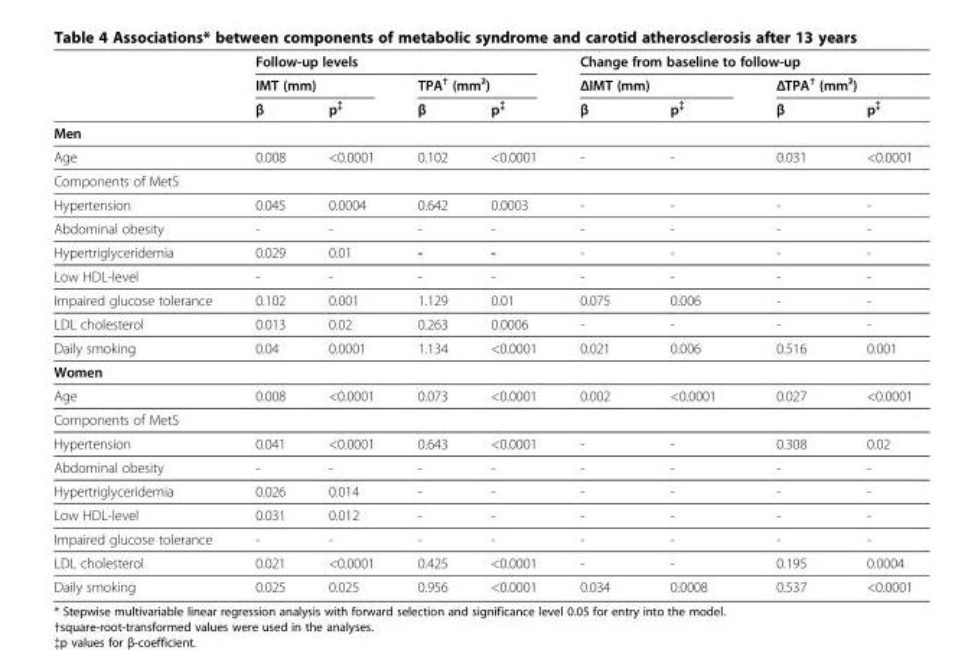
<table><thead><tr><td rowspan="3"></td><td colspan="4">Follow-up levels</td><td colspan="4">Change from baseline to follow-up</td></tr><tr><td colspan="2">IMT (mm)</td><td colspan="2">TPA<sup>†</sup> (mm²)</td><td colspan="2">ΔIMT (mm)</td><td colspan="2">ΔTPA<sup>†</sup> (mm²)</td></tr><tr><td>β</td><td>p{{</td><td>β</td><td>p{{</td><td>β</td><td>p{{</td><td>β</td><td>p{{</td></tr></thead><tbody><tr><td colspan="9">Men</td></tr><tr><td>Age</td><td>0.008</td><td>&lt;0.0001</td><td>0.102</td><td>&lt;0.0001</td><td>-</td><td>-</td><td>0.031</td><td>&lt;0.0001</td></tr><tr><td colspan="9">Components of MetS</td></tr><tr><td>Hypertension</td><td>0.045</td><td>0.0004</td><td>0.642</td><td>0.0003</td><td>-</td><td>-</td><td>-</td><td>-</td></tr><tr><td>Abdominal obesity</td><td>-</td><td>-</td><td>-</td><td>-</td><td>-</td><td>-</td><td>-</td><td>-</td></tr><tr><td>Hypertriglyceridemia</td><td>0.029</td><td>0.01</td><td>-</td><td>-</td><td>-</td><td>-</td><td>-</td><td>-</td></tr><tr><td>Low HDL-level</td><td>-</td><td>-</td><td>-</td><td>-</td><td>-</td><td>-</td><td>-</td><td>-</td></tr><tr><td>Impaired glucose tolerance</td><td>0.102</td><td>0.001</td><td>1.129</td><td>0.01</td><td>0.075</td><td>0.006</td><td>-</td><td>-</td></tr><tr><td>LDL cholesterol</td><td>0.013</td><td>0.02</td><td>0.263</td><td>0.0006</td><td>-</td><td>-</td><td>-</td><td>-</td></tr><tr><td>Daily smoking</td><td>0.04</td><td>0.0001</td><td>1.134</td><td>&lt;0.0001</td><td>0.021</td><td>0.006</td><td>0.516</td><td>0.001</td></tr><tr><td colspan="9">Women</td></tr><tr><td>Age</td><td>0.008</td><td>&lt;0.0001</td><td>0.073</td><td>&lt;0.0001</td><td>0.002</td><td>&lt;0.0001</td><td>0.027</td><td>&lt;0.0001</td></tr><tr><td colspan="9">Components of MetS</td></tr><tr><td>Hypertension</td><td>0.041</td><td>&lt;0.0001</td><td>0.643</td><td>&lt;0.0001</td><td>-</td><td>-</td><td>0.308</td><td>0.02</td></tr><tr><td>Abdominal obesity</td><td>-</td><td>-</td><td>-</td><td>-</td><td>-</td><td>-</td><td>-</td><td>-</td></tr><tr><td>Hypertriglyceridemia</td><td>0.026</td><td>0.014</td><td>-</td><td>-</td><td>-</td><td>-</td><td>-</td><td>-</td></tr><tr><td>Low HDL-level</td><td>0.031</td><td>0.012</td><td>-</td><td>-</td><td>-</td><td>-</td><td>-</td><td>-</td></tr><tr><td>Impaired glucose tolerance</td><td>-</td><td>-</td><td>-</td><td>-</td><td>-</td><td>-</td><td>-</td><td>-</td></tr><tr><td>LDL cholesterol</td><td>0.021</td><td>&lt;0.0001</td><td>0.425</td><td>&lt;0.0001</td><td>-</td><td>-</td><td>0.195</td><td>0.0004</td></tr><tr><td>Daily smoking</td><td>0.025</td><td>0.025</td><td>0.956</td><td>&lt;0.0001</td><td>0.034</td><td>0.0008</td><td>0.537</td><td>&lt;0.0001</td></tr></tbody></table>